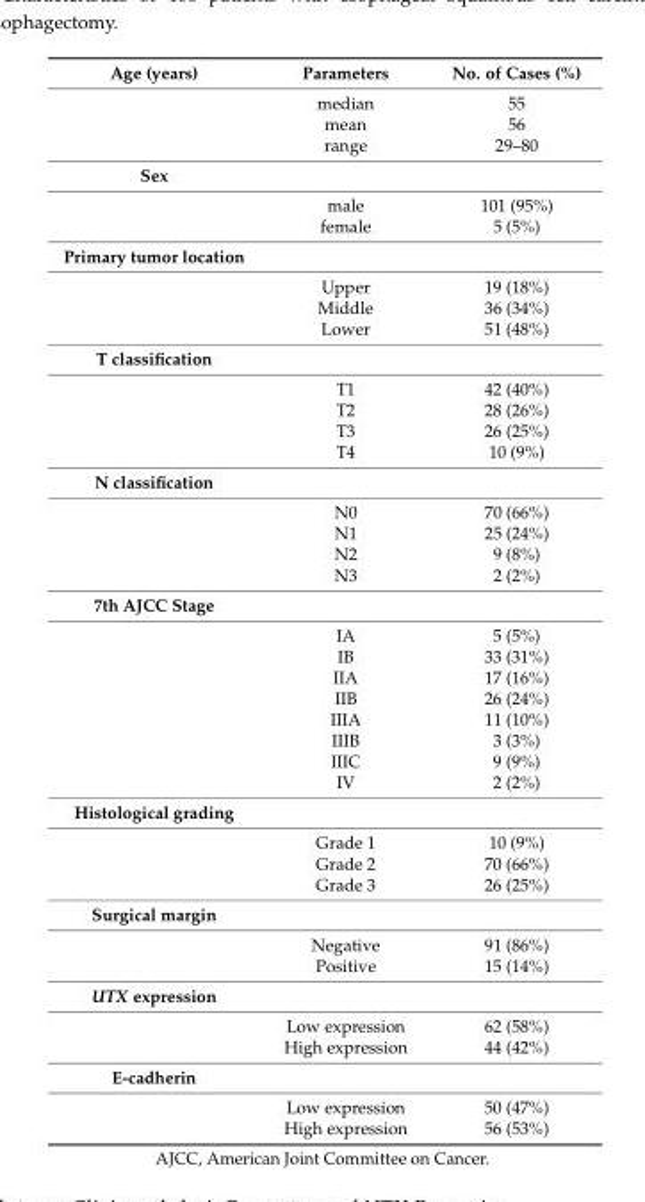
<table><thead><tr><td>Age (years)</td><td>Parameters</td><td>No. of Cases (%)</td></tr></thead><tbody><tr><td></td><td>median</td><td>55</td></tr><tr><td></td><td>mean</td><td>56</td></tr><tr><td></td><td>range</td><td>29–80</td></tr><tr><td colspan="3">Sex</td></tr><tr><td></td><td>male</td><td>101 (95%)</td></tr><tr><td></td><td>female</td><td>5 (5%)</td></tr><tr><td colspan="3">Primary tumor location</td></tr><tr><td></td><td>Upper</td><td>19 (18%)</td></tr><tr><td></td><td>Middle</td><td>36 (34%)</td></tr><tr><td></td><td>Lower</td><td>51 (48%)</td></tr><tr><td colspan="3">T classification</td></tr><tr><td></td><td>T1</td><td>42 (40%)</td></tr><tr><td></td><td>T2</td><td>28 (26%)</td></tr><tr><td></td><td>T3</td><td>26 (25%)</td></tr><tr><td></td><td>T4</td><td>10 (9%)</td></tr><tr><td colspan="3">N classification</td></tr><tr><td></td><td>N0</td><td>70 (66%)</td></tr><tr><td></td><td>N1</td><td>25 (24%)</td></tr><tr><td></td><td>N2</td><td>9 (8%)</td></tr><tr><td></td><td>N3</td><td>2 (2%)</td></tr><tr><td colspan="3">7th AJCC Stage</td></tr><tr><td></td><td>IA</td><td>5 (5%)</td></tr><tr><td></td><td>IB</td><td>33 (31%)</td></tr><tr><td></td><td>IIA</td><td>17 (16%)</td></tr><tr><td></td><td>IIB</td><td>26 (24%)</td></tr><tr><td></td><td>IIIA</td><td>11 (10%)</td></tr><tr><td></td><td>IIIB</td><td>3 (3%)</td></tr><tr><td></td><td>IIIC</td><td>9 (9%)</td></tr><tr><td></td><td>IV</td><td>2 (2%)</td></tr><tr><td colspan="3">Histological grading</td></tr><tr><td></td><td>Grade 1</td><td>10 (9%)</td></tr><tr><td></td><td>Grade 2</td><td>70 (66%)</td></tr><tr><td></td><td>Grade 3</td><td>26 (25%)</td></tr><tr><td colspan="3">Surgical margin</td></tr><tr><td></td><td>Negative</td><td>91 (86%)</td></tr><tr><td></td><td>Positive</td><td>15 (14%)</td></tr><tr><td colspan="3">UTX expression</td></tr><tr><td></td><td>Low expression</td><td>62 (58%)</td></tr><tr><td></td><td>High expression</td><td>44 (42%)</td></tr><tr><td colspan="3">E-cadherin</td></tr><tr><td></td><td>Low expression</td><td>50 (47%)</td></tr><tr><td></td><td>High expression</td><td>56 (53%)</td></tr></tbody></table>